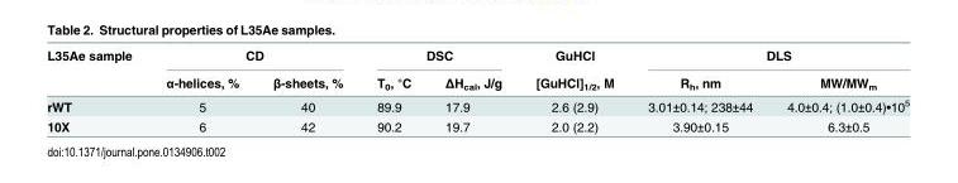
<table><thead><tr><td rowspan="2">L35Ae sample</td><td colspan="2">CD</td><td colspan="2">DSC</td><td rowspan="2">GuHCl [GuHCl]<sub>1/2</sub>, M</td><td colspan="2">DLS</td></tr><tr><td>α-helices, %</td><td>β-sheets, %</td><td>T<sub>0</sub>, °C</td><td>ΔH<sub>cal</sub>, J/g</td><td>R<sub>h</sub>, nm</td><td>MW/MW<sub>m</sub></td></tr></thead><tbody><tr><td>rWT</td><td>5</td><td>40</td><td>89.9</td><td>17.9</td><td>2.6 (2.9)</td><td>3.01±0.14; 238±44</td><td>4.0±0.4; (1.0±0.4)•10<sup>5</sup></td></tr><tr><td>10X</td><td>6</td><td>42</td><td>90.2</td><td>19.7</td><td>2.0 (2.2)</td><td>3.90±0.15</td><td>6.3±0.5</td></tr></tbody></table>